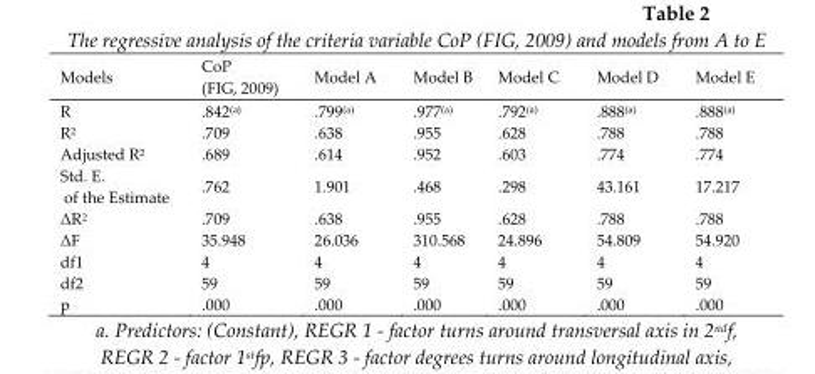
<table><thead><tr><td>Models</td><td>CoP (FIG, 2009)</td><td>Model A</td><td>Model B</td><td>Model C</td><td>Model D</td><td>Model E</td></tr></thead><tbody><tr><td>R</td><td>.842<sup>(a)</sup></td><td>.799<sup>(a)</sup></td><td>.977<sup>(a)</sup></td><td>.792<sup>(a)</sup></td><td>.888<sup>(a)</sup></td><td>.888<sup>(a)</sup></td></tr><tr><td>R<sup>2</sup></td><td>.709</td><td>.638</td><td>.955</td><td>.628</td><td>.788</td><td>.788</td></tr><tr><td>Adjusted R<sup>2</sup></td><td>.689</td><td>.614</td><td>.952</td><td>.603</td><td>.774</td><td>.774</td></tr><tr><td>Std. E. of the Estimate</td><td>.762</td><td>1.901</td><td>.468</td><td>.298</td><td>43.161</td><td>17.217</td></tr><tr><td>ΔR<sup>2</sup></td><td>.709</td><td>.638</td><td>.955</td><td>.628</td><td>.788</td><td>.788</td></tr><tr><td>ΔF</td><td>35.948</td><td>26.036</td><td>310.568</td><td>24.896</td><td>54.809</td><td>54.920</td></tr><tr><td>df1</td><td>4</td><td>4</td><td>4</td><td>4</td><td>4</td><td>4</td></tr><tr><td>df2</td><td>59</td><td>59</td><td>59</td><td>59</td><td>59</td><td>59</td></tr><tr><td>p</td><td>.000</td><td>.000</td><td>.000</td><td>.000</td><td>.000</td><td>.000</td></tr></tbody></table>